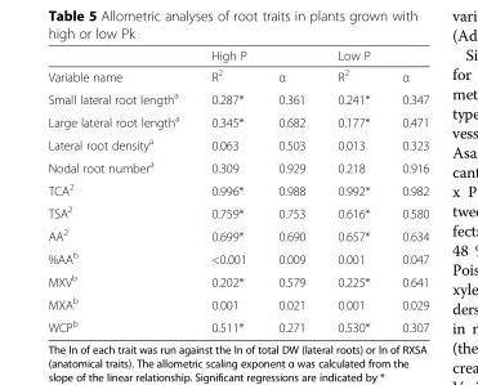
<table><thead><tr><td rowspan="2">Variable name</td><td colspan="2">High P</td><td colspan="2">Low P</td></tr><tr><td>R<sup>2</sup></td><td>α</td><td>R<sup>2</sup></td><td>α</td></tr></thead><tbody><tr><td>Small lateral root length<sup>a</sup></td><td>0.287*</td><td>0.361</td><td>0.241*</td><td>0.347</td></tr><tr><td>Large lateral root length<sup>a</sup></td><td>0.345*</td><td>0.682</td><td>0.177*</td><td>0.471</td></tr><tr><td>Lateral root density<sup>a</sup></td><td>0.063</td><td>0.503</td><td>0.013</td><td>0.323</td></tr><tr><td>Nodal root number<sup>a</sup></td><td>0.309</td><td>0.929</td><td>0.218</td><td>0.916</td></tr><tr><td>TCA<sup>2</sup></td><td>0.996*</td><td>0.988</td><td>0.992*</td><td>0.982</td></tr><tr><td>TSA<sup>2</sup></td><td>0.759*</td><td>0.753</td><td>0.616*</td><td>0.580</td></tr><tr><td>AA<sup>2</sup></td><td>0.699*</td><td>0.690</td><td>0.657*</td><td>0.634</td></tr><tr><td>%AA<sup>b</sup></td><td>&lt;0.001</td><td>0.009</td><td>0.001</td><td>0.047</td></tr><tr><td>MXV<sup>b</sup></td><td>0.202*</td><td>0.579</td><td>0.225*</td><td>0.641</td></tr><tr><td>MXA<sup>b</sup></td><td>0.001</td><td>0.021</td><td>0.001</td><td>0.029</td></tr><tr><td>WCP<sup>b</sup></td><td>0.511*</td><td>0.271</td><td>0.530*</td><td>0.307</td></tr></tbody></table>